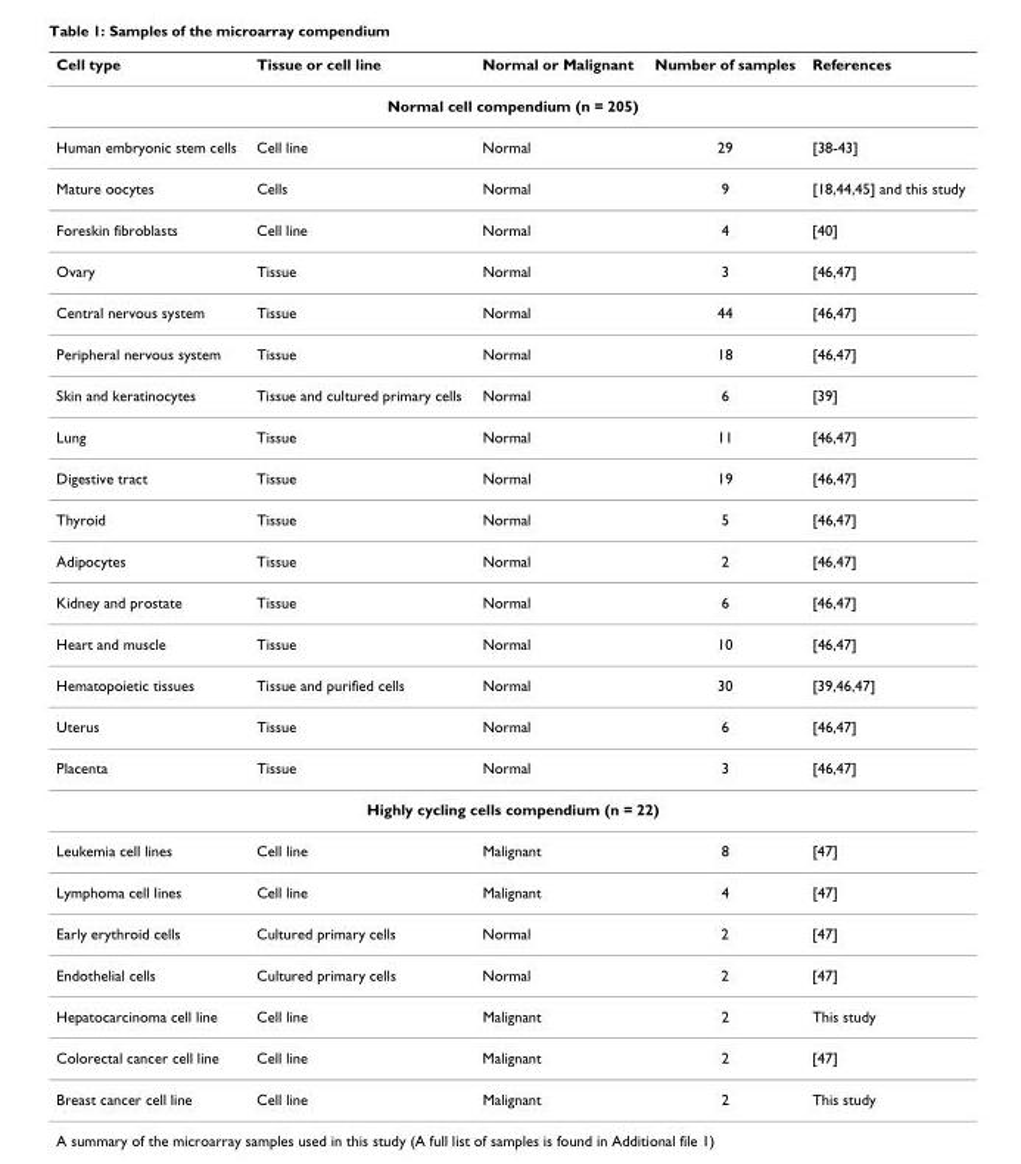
<table><thead><tr><td>Cell type</td><td>Tissue or cell line</td><td>Normal or Malignant</td><td>Number of samples</td><td>References</td></tr></thead><tbody><tr><td colspan="5">Normal cell compendium (n = 205)</td></tr><tr><td>Human embryonic stem cells</td><td>Cell line</td><td>Normal</td><td>29</td><td>[38-43]</td></tr><tr><td>Mature oocytes</td><td>Cells</td><td>Normal</td><td>9</td><td>[18,44,45] and this study</td></tr><tr><td>Foreskin fibroblasts</td><td>Cell line</td><td>Normal</td><td>4</td><td>[40]</td></tr><tr><td>Ovary</td><td>Tissue</td><td>Normal</td><td>3</td><td>[46,47]</td></tr><tr><td>Central nervous system</td><td>Tissue</td><td>Normal</td><td>44</td><td>[46,47]</td></tr><tr><td>Peripheral nervous system</td><td>Tissue</td><td>Normal</td><td>18</td><td>[46,47]</td></tr><tr><td>Skin and keratinocytes</td><td>Tissue and cultured primary cells</td><td>Normal</td><td>6</td><td>[39]</td></tr><tr><td>Lung</td><td>Tissue</td><td>Normal</td><td>11</td><td>[46,47]</td></tr><tr><td>Digestive tract</td><td>Tissue</td><td>Normal</td><td>19</td><td>[46,47]</td></tr><tr><td>Thyroid</td><td>Tissue</td><td>Normal</td><td>5</td><td>[46,47]</td></tr><tr><td>Adipocytes</td><td>Tissue</td><td>Normal</td><td>2</td><td>[46,47]</td></tr><tr><td>Kidney and prostate</td><td>Tissue</td><td>Normal</td><td>6</td><td>[46,47]</td></tr><tr><td>Heart and muscle</td><td>Tissue</td><td>Normal</td><td>10</td><td>[46,47]</td></tr><tr><td>Hematopoietic tissues</td><td>Tissue and purified cells</td><td>Normal</td><td>30</td><td>[39,46,47]</td></tr><tr><td>Uterus</td><td>Tissue</td><td>Normal</td><td>6</td><td>[46,47]</td></tr><tr><td>Placenta</td><td>Tissue</td><td>Normal</td><td>3</td><td>[46,47]</td></tr><tr><td colspan="5">Highly cycling cells compendium (n = 22)</td></tr><tr><td>Leukemia cell lines</td><td>Cell line</td><td>Malignant</td><td>8</td><td>[47]</td></tr><tr><td>Lymphoma cell lines</td><td>Cell line</td><td>Malignant</td><td>4</td><td>[47]</td></tr><tr><td>Early erythroid cells</td><td>Cultured primary cells</td><td>Normal</td><td>2</td><td>[47]</td></tr><tr><td>Endothelial cells</td><td>Cultured primary cells</td><td>Normal</td><td>2</td><td>[47]</td></tr><tr><td>Hepatocarcinoma cell line</td><td>Cell line</td><td>Malignant</td><td>2</td><td>This study</td></tr><tr><td>Colorectal cancer cell line</td><td>Cell line</td><td>Malignant</td><td>2</td><td>[47]</td></tr><tr><td>Breast cancer cell line</td><td>Cell line</td><td>Malignant</td><td>2</td><td>This study</td></tr></tbody></table>